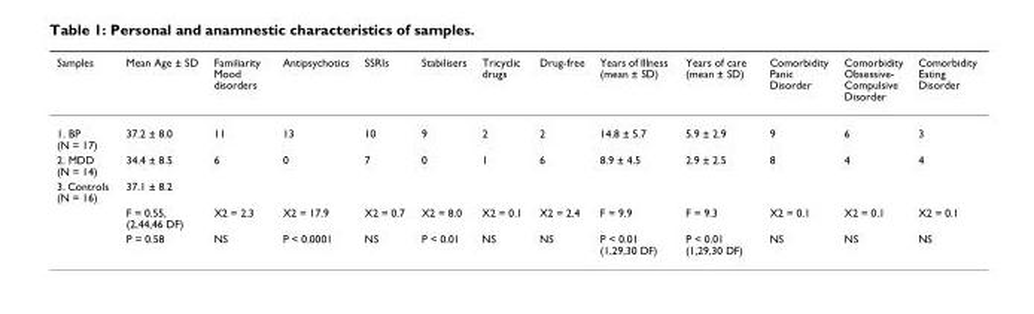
<table><thead><tr><td>Samples</td><td>Mean Age ± SD</td><td>Familiarity Mood disorders</td><td>Antipsychotics</td><td>SSRIs</td><td>Stabilisers</td><td>Tricyclic drugs</td><td>Drug-free</td><td>Years of Illness (mean ± SD)</td><td>Years of care (mean ± SD)</td><td>Comorbidity Panic Disorder</td><td>Comorbidity Obsessive- Compulsive Disorder</td><td>Comorbidity Eating Disorder</td></tr></thead><tbody><tr><td>1. BP (N = 17)</td><td>37.2 ± 8.0</td><td>11</td><td>13</td><td>10</td><td>9</td><td>2</td><td>2</td><td>14.8 ± 5.7</td><td>5.9 ± 2.9</td><td>9</td><td>6</td><td>3</td></tr><tr><td>2. MDD (N = 14)</td><td>34.4 ± 8.5</td><td>6</td><td>0</td><td>7</td><td>0</td><td>1</td><td>6</td><td>8.9 ± 4.5</td><td>2.9 ± 2.5</td><td>8</td><td>4</td><td>4</td></tr><tr><td rowspan="3">3. Controls (N = 16)</td><td>37.1 ± 8.2</td><td></td><td></td><td></td><td></td><td></td><td></td><td></td><td></td><td></td><td></td><td></td></tr><tr><td>F = 0.55, (2,44,46 DF)</td><td>X2 = 2.3</td><td>X2 = 17.9</td><td>X2 = 0.7</td><td>X2 = 8.0</td><td>X2 = 0.1</td><td>X2 = 2.4</td><td>F = 9.9</td><td>F = 9.3</td><td>X2 = 0.1</td><td>X2 = 0.1</td><td>X2 = 0.1</td></tr><tr><td>P = 0.58</td><td>NS</td><td>P &lt; 0.0001</td><td>NS</td><td>P &lt; 0.01</td><td>NS</td><td>NS</td><td>P &lt; 0.01 (1,29,30 DF)</td><td>P &lt; 0.01 (1,29,30 DF)</td><td>NS</td><td>NS</td><td>NS</td></tr></tbody></table>